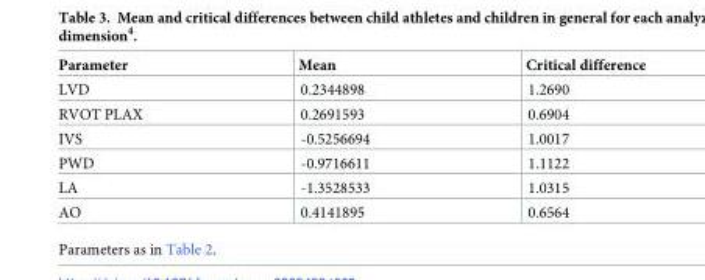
<table><thead><tr><td>Parameter</td><td>Mean</td><td>Critical difference</td></tr></thead><tbody><tr><td>LVD</td><td>0.2344898</td><td>1.2690</td></tr><tr><td>RVOT PLAX</td><td>0.2691593</td><td>0.6904</td></tr><tr><td>IVS</td><td>-0.5256694</td><td>1.0017</td></tr><tr><td>PWD</td><td>-0.9716611</td><td>1.1122</td></tr><tr><td>LA</td><td>-1.3528533</td><td>1.0315</td></tr><tr><td>AO</td><td>0.4141895</td><td>0.6564</td></tr></tbody></table>